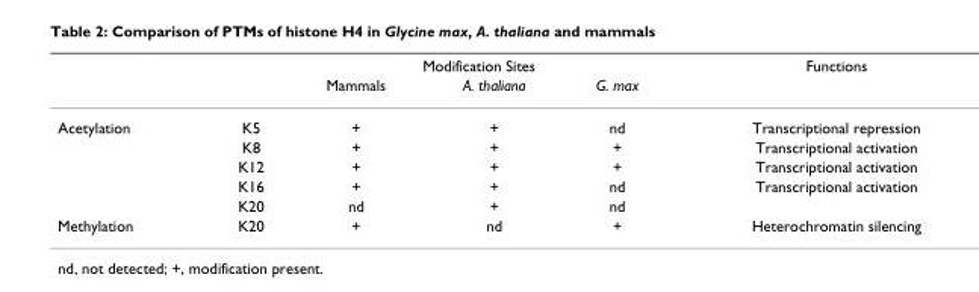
<table><thead><tr><td rowspan="2"></td><td rowspan="2"></td><td colspan="3">Modification Sites</td><td rowspan="2">Functions</td></tr><tr><td>Mammals</td><td>A. thaliana</td><td>G. max</td></tr></thead><tbody><tr><td rowspan="5">Acetylation</td><td>K5</td><td>+</td><td>+</td><td>nd</td><td>Transcriptional repression</td></tr><tr><td>K8</td><td>+</td><td>+</td><td>+</td><td>Transcriptional activation</td></tr><tr><td>K12</td><td>+</td><td>+</td><td>+</td><td>Transcriptional activation</td></tr><tr><td>K16</td><td>+</td><td>+</td><td>nd</td><td>Transcriptional activation</td></tr><tr><td>K20</td><td>nd</td><td>+</td><td>nd</td><td></td></tr><tr><td>Methylation</td><td>K20</td><td>+</td><td>nd</td><td>+</td><td>Heterochromatin silencing</td></tr></tbody></table>